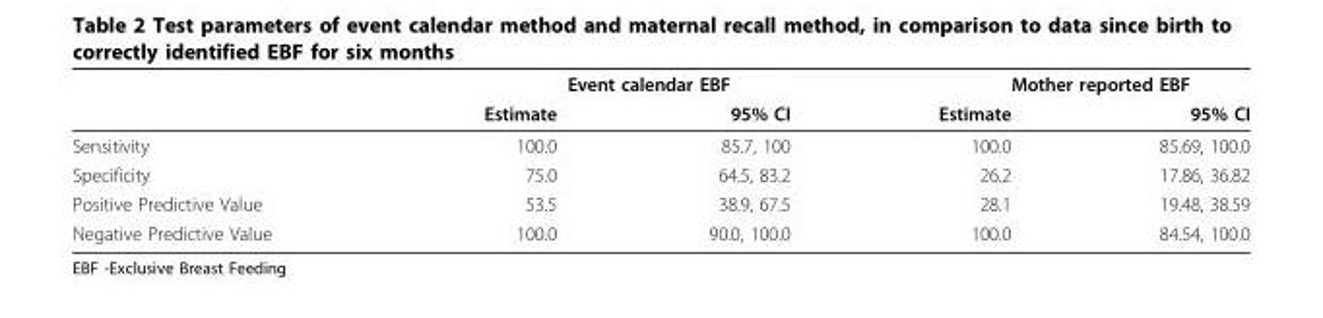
<table><thead><tr><td rowspan="2"></td><td colspan="2">Event calendar EBF</td><td colspan="2">Mother reported EBF</td></tr><tr><td>Estimate</td><td>95% CI</td><td>Estimate</td><td>95% CI</td></tr></thead><tbody><tr><td>Sensitivity</td><td>100.0</td><td>85.7, 100</td><td>100.0</td><td>85.69, 100.0</td></tr><tr><td>Specificity</td><td>75.0</td><td>64.5, 83.2</td><td>26.2</td><td>17.86, 36.82</td></tr><tr><td>Positive Predictive Value</td><td>53.5</td><td>38.9, 67.5</td><td>28.1</td><td>19.48, 38.59</td></tr><tr><td>Negative Predictive Value</td><td>100.0</td><td>90.0, 100.0</td><td>100.0</td><td>84.54, 100.0</td></tr></tbody></table>